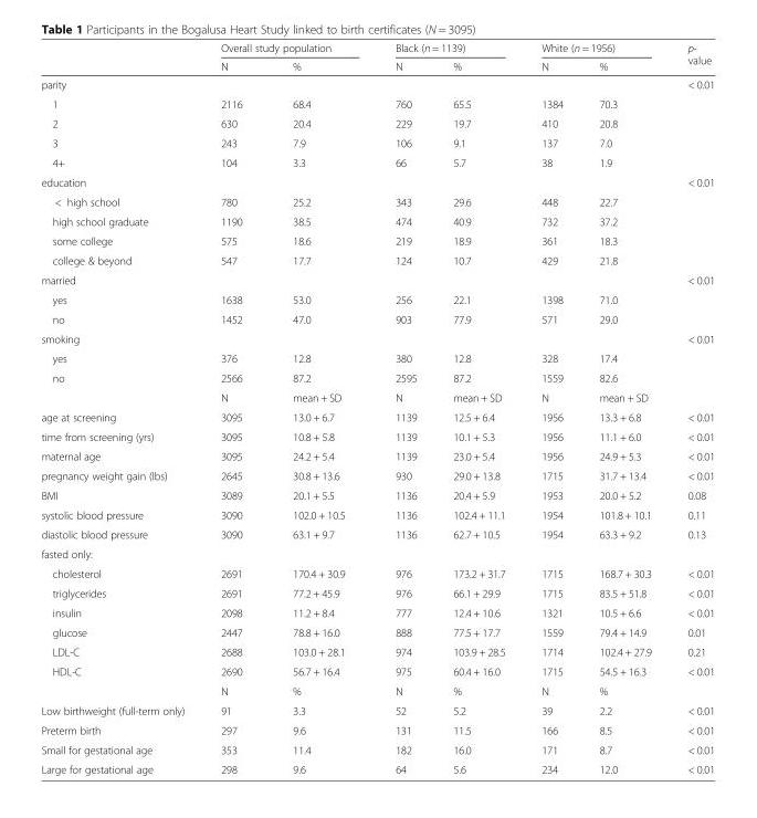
<table><thead><tr><td rowspan="2"></td><td colspan="2">Overall study population</td><td colspan="2">Black (n = 1139)</td><td colspan="2">White (n = 1956)</td><td rowspan="2">p- value</td></tr><tr><td>N</td><td>%</td><td>N</td><td>%</td><td>N</td><td>%</td></tr></thead><tbody><tr><td>parity</td><td></td><td></td><td></td><td></td><td></td><td></td><td>&lt; 0.01</td></tr><tr><td>1</td><td>2116</td><td>68.4</td><td>760</td><td>65.5</td><td>1384</td><td>70.3</td><td></td></tr><tr><td>2</td><td>630</td><td>20.4</td><td>229</td><td>19.7</td><td>410</td><td>20.8</td><td></td></tr><tr><td>3</td><td>243</td><td>7.9</td><td>106</td><td>9.1</td><td>137</td><td>7.0</td><td></td></tr><tr><td>4+</td><td>104</td><td>3.3</td><td>66</td><td>5.7</td><td>38</td><td>1.9</td><td></td></tr><tr><td>education</td><td></td><td></td><td></td><td></td><td></td><td></td><td>&lt; 0.01</td></tr><tr><td>&lt; high school</td><td>780</td><td>25.2</td><td>343</td><td>29.6</td><td>448</td><td>22.7</td><td></td></tr><tr><td>high school graduate</td><td>1190</td><td>38.5</td><td>474</td><td>40.9</td><td>732</td><td>37.2</td><td></td></tr><tr><td>some college</td><td>575</td><td>18.6</td><td>219</td><td>18.9</td><td>361</td><td>18.3</td><td></td></tr><tr><td>college &amp; beyond</td><td>547</td><td>17.7</td><td>124</td><td>10.7</td><td>429</td><td>21.8</td><td></td></tr><tr><td>married</td><td></td><td></td><td></td><td></td><td></td><td></td><td>&lt; 0.01</td></tr><tr><td>yes</td><td>1638</td><td>53.0</td><td>256</td><td>22.1</td><td>1398</td><td>71.0</td><td></td></tr><tr><td>no</td><td>1452</td><td>47.0</td><td>903</td><td>77.9</td><td>571</td><td>29.0</td><td></td></tr><tr><td>smoking</td><td></td><td></td><td></td><td></td><td></td><td></td><td>&lt; 0.01</td></tr><tr><td>yes</td><td>376</td><td>12.8</td><td>380</td><td>12.8</td><td>328</td><td>17.4</td><td></td></tr><tr><td rowspan="2">no</td><td>2566</td><td>87.2</td><td>2595</td><td>87.2</td><td>1559</td><td>82.6</td><td></td></tr><tr><td>N</td><td>mean + SD</td><td>N</td><td>mean + SD</td><td>N</td><td>mean + SD</td><td></td></tr><tr><td>age at screening</td><td>3095</td><td>13.0 + 6.7</td><td>1139</td><td>12.5 + 6.4</td><td>1956</td><td>13.3 + 6.8</td><td>&lt; 0.01</td></tr><tr><td>time from screening (yrs)</td><td>3095</td><td>10.8 + 5.8</td><td>1139</td><td>10.1 + 5.3</td><td>1956</td><td>11.1 + 6.0</td><td>&lt; 0.01</td></tr><tr><td>maternal age</td><td>3095</td><td>24.2 + 5.4</td><td>1139</td><td>23.0 + 5.4</td><td>1956</td><td>24.9 + 5.3</td><td>&lt; 0.01</td></tr><tr><td>pregnancy weight gain (lbs)</td><td>2645</td><td>30.8 + 13.6</td><td>930</td><td>29.0 + 13.8</td><td>1715</td><td>31.7 + 13.4</td><td>&lt; 0.01</td></tr><tr><td>BMI</td><td>3089</td><td>20.1 + 5.5</td><td>1136</td><td>20.4 + 5.9</td><td>1953</td><td>20.0 + 5.2</td><td>0.08</td></tr><tr><td>systolic blood pressure</td><td>3090</td><td>102.0 + 10.5</td><td>1136</td><td>102.4 + 11.1</td><td>1954</td><td>101.8 + 10.1</td><td>0.11</td></tr><tr><td>diastolic blood pressure</td><td>3090</td><td>63.1 + 9.7</td><td>1136</td><td>62.7 + 10.5</td><td>1954</td><td>63.3 + 9.2</td><td>0.13</td></tr><tr><td colspan="8">fasted only:</td></tr><tr><td>cholesterol</td><td>2691</td><td>170.4 + 30.9</td><td>976</td><td>173.2 + 31.7</td><td>1715</td><td>168.7 + 30.3</td><td>&lt; 0.01</td></tr><tr><td>triglycerides</td><td>2691</td><td>77.2 + 45.9</td><td>976</td><td>66.1 + 29.9</td><td>1715</td><td>83.5 + 51.8</td><td>&lt; 0.01</td></tr><tr><td>insulin</td><td>2098</td><td>11.2 + 8.4</td><td>777</td><td>12.4 + 10.6</td><td>1321</td><td>10.5 + 6.6</td><td>&lt; 0.01</td></tr><tr><td>glucose</td><td>2447</td><td>78.8 + 16.0</td><td>888</td><td>77.5 + 17.7</td><td>1559</td><td>79.4 + 14.9</td><td>0.01</td></tr><tr><td>LDL-C</td><td>2688</td><td>103.0 + 28.1</td><td>974</td><td>103.9 + 28.5</td><td>1714</td><td>102.4 + 27.9</td><td>0.21</td></tr><tr><td rowspan="2">HDL-C</td><td>2690</td><td>56.7 + 16.4</td><td>975</td><td>60.4 + 16.0</td><td>1715</td><td>54.5 + 16.3</td><td>&lt; 0.01</td></tr><tr><td>N</td><td>%</td><td>N</td><td>%</td><td>N</td><td>%</td><td></td></tr><tr><td>Low birthweight (full-term only)</td><td>91</td><td>3.3</td><td>52</td><td>5.2</td><td>39</td><td>2.2</td><td>&lt; 0.01</td></tr><tr><td>Preterm birth</td><td>297</td><td>9.6</td><td>131</td><td>11.5</td><td>166</td><td>8.5</td><td>&lt; 0.01</td></tr><tr><td>Small for gestational age</td><td>353</td><td>11.4</td><td>182</td><td>16.0</td><td>171</td><td>8.7</td><td>&lt; 0.01</td></tr><tr><td>Large for gestational age</td><td>298</td><td>9.6</td><td>64</td><td>5.6</td><td>234</td><td>12.0</td><td>&lt; 0.01</td></tr></tbody></table>